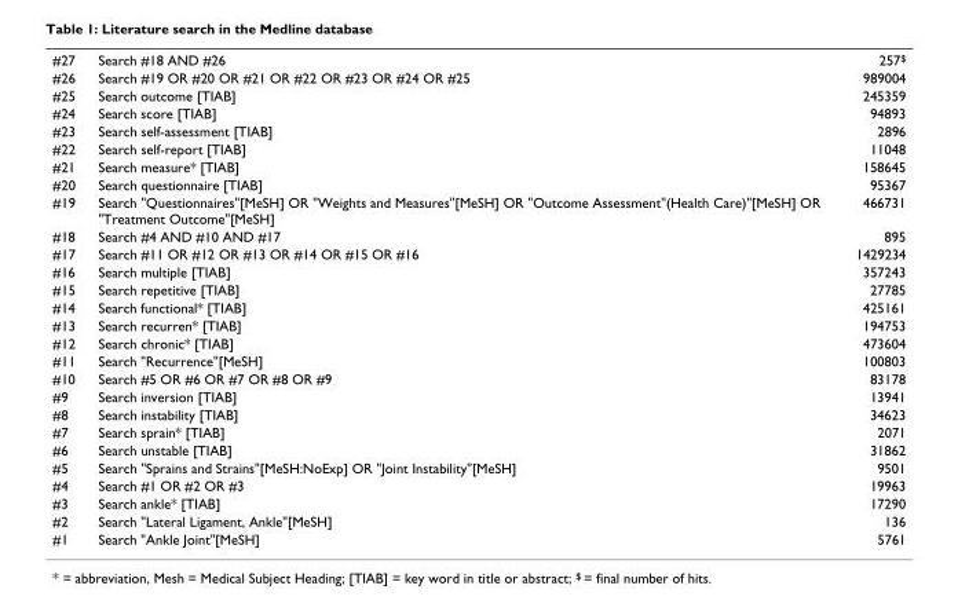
<table><tbody><tr><td>#27</td><td>Search #18 AND #26</td><td>257$</td></tr><tr><td>#26</td><td>Search #19 OR #20 OR #21 OR #22 OR #23 OR #24 OR #25</td><td>989004</td></tr><tr><td>#25</td><td>Search outcome [TIAB]</td><td>245359</td></tr><tr><td>#24</td><td>Search score [TIAB]</td><td>94893</td></tr><tr><td>#23</td><td>Search self-assessment [TIAB]</td><td>2896</td></tr><tr><td>#22</td><td>Search self-report [TIAB]</td><td>11048</td></tr><tr><td>#21</td><td>Search measure* [TIAB]</td><td>158645</td></tr><tr><td>#20</td><td>Search questionnaire [TIAB]</td><td>95367</td></tr><tr><td>#19</td><td>Search &quot;Questionnaires&quot;[MeSH] OR &quot;Weights and Measures&quot;[MeSH] OR &quot;Outcome Assessment&quot;(Health Care)&quot;[MeSH] OR &quot;Treatment Outcome&quot;[MeSH]</td><td>466731</td></tr><tr><td>#18</td><td>Search #4 AND #10 AND #17</td><td>895</td></tr><tr><td>#17</td><td>Search #11 OR #12 OR #13 OR #14 OR #15 OR #16</td><td>1429234</td></tr><tr><td>#16</td><td>Search multiple [TIAB]</td><td>357243</td></tr><tr><td>#15</td><td>Search repetitive [TIAB]</td><td>27785</td></tr><tr><td>#14</td><td>Search functional* [TIAB]</td><td>425161</td></tr><tr><td>#13</td><td>Search recurren* [TIAB]</td><td>194753</td></tr><tr><td>#12</td><td>Search chronic* [TIAB]</td><td>473604</td></tr><tr><td>#11</td><td>Search &quot;Recurrence&quot;[MeSH]</td><td>100803</td></tr><tr><td>#10</td><td>Search #5 OR #6 OR #7 OR #8 OR #9</td><td>83178</td></tr><tr><td>#9</td><td>Search inversion [TIAB]</td><td>13941</td></tr><tr><td>#8</td><td>Search instability [TIAB]</td><td>34623</td></tr><tr><td>#7</td><td>Search sprain* [TIAB]</td><td>2071</td></tr><tr><td>#6</td><td>Search unstable [TIAB]</td><td>31862</td></tr><tr><td>#5</td><td>Search &quot;Sprains and Strains&quot;[MeSH:NoExp] OR &quot;Joint Instability&quot;[MeSH]</td><td>9501</td></tr><tr><td>#4</td><td>Search #1 OR #2 OR #3</td><td>19963</td></tr><tr><td>#3</td><td>Search ankle* [TIAB]</td><td>17290</td></tr><tr><td>#2</td><td>Search &quot;Lateral Ligament, Ankle&quot;[MeSH]</td><td>136</td></tr><tr><td>#1</td><td>Search &quot;Ankle Joint&quot;[MeSH]</td><td>5761</td></tr></tbody></table>